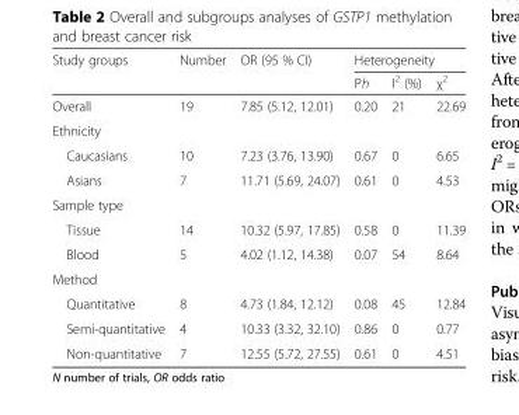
<table><thead><tr><td rowspan="2">Study groups</td><td rowspan="2">Number</td><td rowspan="2">OR (95 % CI)</td><td colspan="3">Heterogeneity</td></tr><tr><td>Ph</td><td>I<sup>2</sup> (%)</td><td>χ<sup>2</sup></td></tr></thead><tbody><tr><td>Overall</td><td>19</td><td>7.85 (5.12, 12.01)</td><td>0.20</td><td>21</td><td>22.69</td></tr><tr><td colspan="6">Ethnicity</td></tr><tr><td>Caucasians</td><td>10</td><td>7.23 (3.76, 13.90)</td><td>0.67</td><td>0</td><td>6.65</td></tr><tr><td>Asians</td><td>7</td><td>11.71 (5.69, 24.07)</td><td>0.61</td><td>0</td><td>4.53</td></tr><tr><td colspan="6">Sample type</td></tr><tr><td>Tissue</td><td>14</td><td>10.32 (5.97, 17.85)</td><td>0.58</td><td>0</td><td>11.39</td></tr><tr><td>Blood</td><td>5</td><td>4.02 (1.12, 14.38)</td><td>0.07</td><td>54</td><td>8.64</td></tr><tr><td colspan="6">Method</td></tr><tr><td>Quantitative</td><td>8</td><td>4.73 (1.84, 12.12)</td><td>0.08</td><td>45</td><td>12.84</td></tr><tr><td>Semi-quantitative</td><td>4</td><td>10.33 (3.32, 32.10)</td><td>0.86</td><td>0</td><td>0.77</td></tr><tr><td>Non-quantitative</td><td>7</td><td>12.55 (5.72, 27.55)</td><td>0.61</td><td>0</td><td>4.51</td></tr></tbody></table>